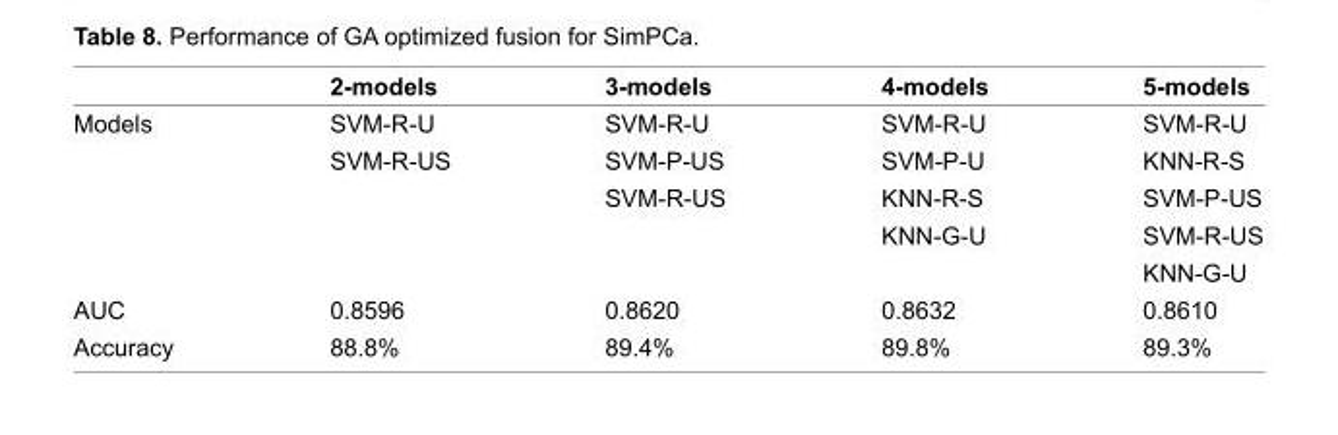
<table><thead><tr><td></td><td>2-models</td><td>3-models</td><td>4-models</td><td>5-models</td></tr></thead><tbody><tr><td rowspan="5">Models</td><td>SVM-R-U</td><td>SVM-R-U</td><td>SVM-R-U</td><td>SVM-R-U</td></tr><tr><td>SVM-R-US</td><td>SVM-P-US</td><td>SVM-P-U</td><td>KNN-R-S</td></tr><tr><td></td><td>SVM-R-US</td><td>KNN-R-S</td><td>SVM-P-US</td></tr><tr><td></td><td></td><td>KNN-G-U</td><td>SVM-R-US</td></tr><tr><td></td><td></td><td></td><td>KNN-G-U</td></tr><tr><td>AUC</td><td>0.8596</td><td>0.8620</td><td>0.8632</td><td>0.8610</td></tr><tr><td>Accuracy</td><td>88.8%</td><td>89.4%</td><td>89.8%</td><td>89.3%</td></tr></tbody></table>